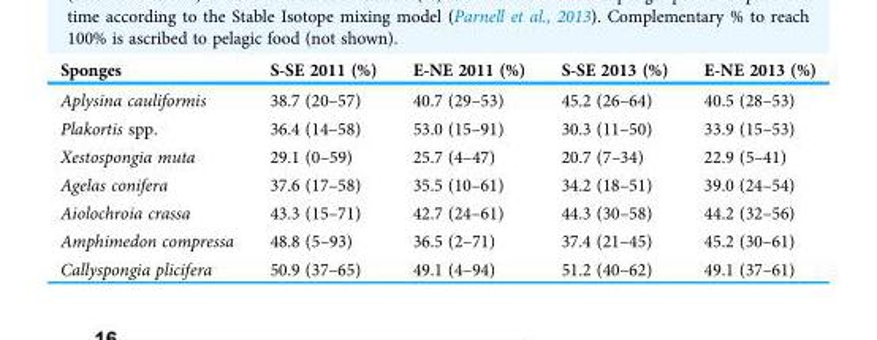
<table><thead><tr><td>Sponges</td><td>S-SE 2011 (%)</td><td>E-NE 2011 (%)</td><td>S-SE 2013 (%)</td><td>E-NE 2013 (%)</td></tr></thead><tbody><tr><td>Aplysina cauliformis</td><td>38.7 (20–57)</td><td>40.7 (29–53)</td><td>45.2 (26–64)</td><td>40.5 (28–53)</td></tr><tr><td>Plakortis spp.</td><td>36.4 (14–58)</td><td>53.0 (15–91)</td><td>30.3 (11–50)</td><td>33.9 (15–53)</td></tr><tr><td>Xestospongia muta</td><td>29.1 (0–59)</td><td>25.7 (4–47)</td><td>20.7 (7–34)</td><td>22.9 (5–41)</td></tr><tr><td>Agelas conifera</td><td>37.6 (17–58)</td><td>35.5 (10–61)</td><td>34.2 (18–51)</td><td>39.0 (24–54)</td></tr><tr><td>Aiolochroia crassa</td><td>43.3 (15–71)</td><td>42.7 (24–61)</td><td>44.3 (30–58)</td><td>44.2 (32–56)</td></tr><tr><td>Amphimedon compressa</td><td>48.8 (5–93)</td><td>36.5 (2–71)</td><td>37.4 (21–45)</td><td>45.2 (30–61)</td></tr><tr><td>Callyspongia plicifera</td><td>50.9 (37–65)</td><td>49.1 (4–94)</td><td>51.2 (40–62)</td><td>49.1 (37–61)</td></tr></tbody></table>